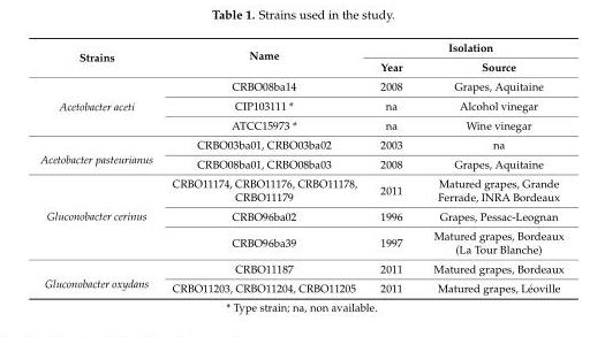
<table><thead><tr><td rowspan="2">Strains</td><td rowspan="2">Name</td><td colspan="2">Isolation</td></tr><tr><td>Year</td><td>Source</td></tr></thead><tbody><tr><td rowspan="3">Acetobacter aceti</td><td>CRBO08ba14</td><td>2008</td><td>Grapes, Aquitaine</td></tr><tr><td>CIP103111 *</td><td>na</td><td>Alcohol vinegar</td></tr><tr><td>ATCC15973 *</td><td>na</td><td>Wine vinegar</td></tr><tr><td rowspan="2">Acetobacter pasteurianus</td><td>CRBO03ba01, CRBO03ba02</td><td>2003</td><td>na</td></tr><tr><td>CRBO08ba01, CRBO08ba03</td><td>2008</td><td>Grapes, Aquitaine</td></tr><tr><td rowspan="3">Gluconobacter cerinus</td><td>CRBO11174, CRBO11176, CRBO11178, CRBO11179</td><td>2011</td><td>Matured grapes, Grande Ferrade, INRA Bordeaux</td></tr><tr><td>CRBO96ba02</td><td>1996</td><td>Grapes, Pessac-Leognan</td></tr><tr><td>CRBO96ba39</td><td>1997</td><td>Matured grapes, Bordeaux (La Tour Blanche)</td></tr><tr><td rowspan="2">Gluconobacter oxydans</td><td>CRBO11187</td><td>2011</td><td>Matured grapes, Bordeaux</td></tr><tr><td>CRBO11203, CRBO11204, CRBO11205</td><td>2011</td><td>Matured grapes, Léoville</td></tr></tbody></table>